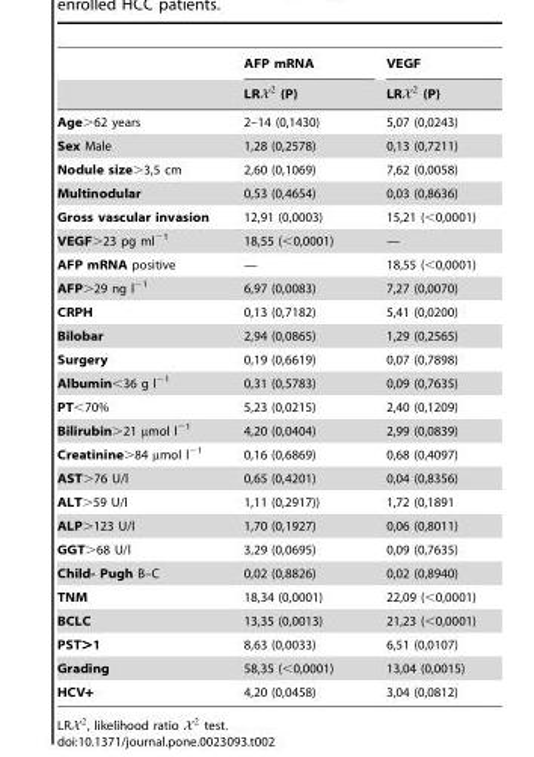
<table><thead><tr><td rowspan="2"></td><td rowspan="2">AFP mRNA LRX2 (P)</td><td rowspan="2">VEGF LRX2 (P)</td></tr><tr></tr></thead><tbody><tr><td>Age&gt;62 years</td><td>2–14 (0,1430)</td><td>5,07 (0,0243)</td></tr><tr><td>Sex Male</td><td>1,28 (0,2578)</td><td>0,13 (0,7211)</td></tr><tr><td>Nodule size&gt;3,5 cm</td><td>2,60 (0,1069)</td><td>7,62 (0,0058)</td></tr><tr><td>Multinodular</td><td>0,53 (0,4654)</td><td>0,03 (0,8636)</td></tr><tr><td>Gross vascular invasion</td><td>12,91 (0,0003)</td><td>15,21 (&lt;0,0001)</td></tr><tr><td>VEGF&gt;23 pg ml<sup>−1</sup></td><td>18,55 (&lt;0,0001)</td><td>—</td></tr><tr><td>AFP mRNA positive</td><td>—</td><td>18,55 (&lt;0,0001)</td></tr><tr><td>AFP&gt;29 ng l<sup>−1</sup></td><td>6,97 (0,0083)</td><td>7,27 (0,0070)</td></tr><tr><td>CRPH</td><td>0,13 (0,7182)</td><td>5,41 (0,0200)</td></tr><tr><td>Bilobar</td><td>2,94 (0,0865)</td><td>1,29 (0,2565)</td></tr><tr><td>Surgery</td><td>0,19 (0,6619)</td><td>0,07 (0,7898)</td></tr><tr><td>Albumin&lt;36 g l<sup>−1</sup></td><td>0,31 (0,5783)</td><td>0,09 (0,7635)</td></tr><tr><td>PT&lt;70%</td><td>5,23 (0,0215)</td><td>2,40 (0,1209)</td></tr><tr><td>Bilirubin&gt;21 µmol l<sup>−1</sup></td><td>4,20 (0,0404)</td><td>2,99 (0,0839)</td></tr><tr><td>Creatinine&gt;84 µmol l<sup>−1</sup></td><td>0,16 (0,6869)</td><td>0,68 (0,4097)</td></tr><tr><td>AST&gt;76 U/l</td><td>0,65 (0,4201)</td><td>0,04 (0,8356)</td></tr><tr><td>ALT&gt;59 U/l</td><td>1,11 (0,2917))</td><td>1,72 (0,1891</td></tr><tr><td>ALP&gt;123 U/l</td><td>1,70 (0,1927)</td><td>0,06 (0,8011)</td></tr><tr><td>GGT&gt;68 U/l</td><td>3,29 (0,0695)</td><td>0,09 (0,7635)</td></tr><tr><td>Child- Pugh B–C</td><td>0,02 (0,8826)</td><td>0,02 (0,8940)</td></tr><tr><td>TNM</td><td>18,34 (0,0001)</td><td>22,09 (&lt;0,0001)</td></tr><tr><td>BCLC</td><td>13,35 (0,0013)</td><td>21,23 (&lt;0,0001)</td></tr><tr><td>PST&gt;1</td><td>8,63 (0,0033)</td><td>6,51 (0,0107)</td></tr><tr><td>Grading</td><td>58,35 (&lt;0,0001)</td><td>13,04 (0,0015)</td></tr><tr><td>HCV+</td><td>4,20 (0,0458)</td><td>3,04 (0,0812)</td></tr></tbody></table>